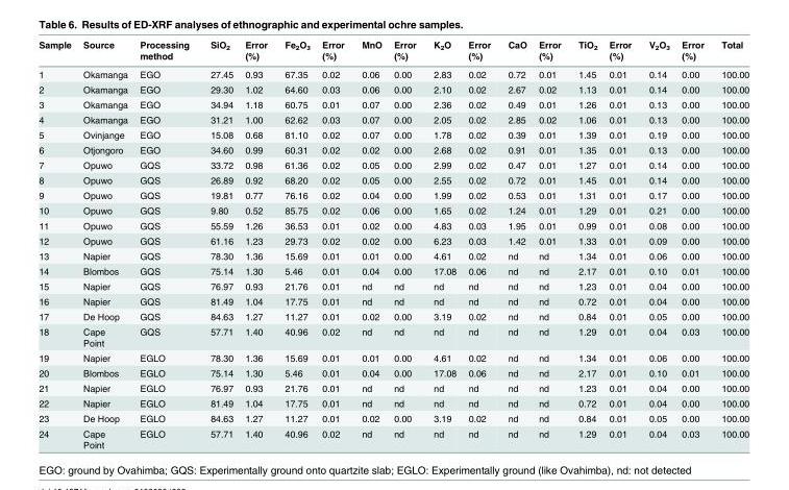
<table><thead><tr><td>Sample</td><td>Source</td><td>Processing method</td><td>SiO<sub>2</sub></td><td>Error (%)</td><td>Fe<sub>2</sub>O<sub>3</sub></td><td>Error (%)</td><td>MnO</td><td>Error (%)</td><td>K<sub>2</sub>O</td><td>Error (%)</td><td>CaO</td><td>Error (%)</td><td>TiO<sub>2</sub></td><td>Error (%)</td><td>V<sub>2</sub>O<sub>3</sub></td><td>Error (%)</td><td>Total</td></tr></thead><tbody><tr><td>1</td><td>Okamanga</td><td>EGO</td><td>27.45</td><td>0.93</td><td>67.35</td><td>0.02</td><td>0.06</td><td>0.00</td><td>2.83</td><td>0.02</td><td>0.72</td><td>0.01</td><td>1.45</td><td>0.01</td><td>0.14</td><td>0.00</td><td>100.00</td></tr><tr><td>2</td><td>Okamanga</td><td>EGO</td><td>29.30</td><td>1.02</td><td>64.60</td><td>0.03</td><td>0.06</td><td>0.00</td><td>2.10</td><td>0.02</td><td>2.67</td><td>0.02</td><td>1.13</td><td>0.01</td><td>0.14</td><td>0.00</td><td>100.00</td></tr><tr><td>3</td><td>Okamanga</td><td>EGO</td><td>34.94</td><td>1.18</td><td>60.75</td><td>0.01</td><td>0.07</td><td>0.00</td><td>2.36</td><td>0.02</td><td>0.49</td><td>0.01</td><td>1.26</td><td>0.01</td><td>0.13</td><td>0.00</td><td>100.00</td></tr><tr><td>4</td><td>Okamanga</td><td>EGO</td><td>31.21</td><td>1.00</td><td>62.62</td><td>0.03</td><td>0.07</td><td>0.00</td><td>2.05</td><td>0.02</td><td>2.85</td><td>0.02</td><td>1.06</td><td>0.01</td><td>0.13</td><td>0.00</td><td>100.00</td></tr><tr><td>5</td><td>Ovinjange</td><td>EGO</td><td>15.08</td><td>0.68</td><td>81.10</td><td>0.02</td><td>0.07</td><td>0.00</td><td>1.78</td><td>0.02</td><td>0.39</td><td>0.01</td><td>1.39</td><td>0.01</td><td>0.19</td><td>0.00</td><td>100.00</td></tr><tr><td>6</td><td>Otjongoro</td><td>EGO</td><td>34.60</td><td>0.99</td><td>60.31</td><td>0.02</td><td>0.02</td><td>0.00</td><td>2.68</td><td>0.02</td><td>0.91</td><td>0.01</td><td>1.35</td><td>0.01</td><td>0.13</td><td>0.00</td><td>100.00</td></tr><tr><td>7</td><td>Opuwo</td><td>GQS</td><td>33.72</td><td>0.98</td><td>61.36</td><td>0.02</td><td>0.05</td><td>0.00</td><td>2.99</td><td>0.02</td><td>0.47</td><td>0.01</td><td>1.27</td><td>0.01</td><td>0.14</td><td>0.00</td><td>100.00</td></tr><tr><td>8</td><td>Opuwo</td><td>GQS</td><td>26.89</td><td>0.92</td><td>68.20</td><td>0.02</td><td>0.05</td><td>0.00</td><td>2.55</td><td>0.02</td><td>0.72</td><td>0.01</td><td>1.45</td><td>0.01</td><td>0.14</td><td>0.00</td><td>100.00</td></tr><tr><td>9</td><td>Opuwo</td><td>GQS</td><td>19.81</td><td>0.77</td><td>76.16</td><td>0.02</td><td>0.04</td><td>0.00</td><td>1.99</td><td>0.02</td><td>0.53</td><td>0.01</td><td>1.31</td><td>0.01</td><td>0.17</td><td>0.00</td><td>100.00</td></tr><tr><td>10</td><td>Opuwo</td><td>GQS</td><td>9.80</td><td>0.52</td><td>85.75</td><td>0.02</td><td>0.06</td><td>0.00</td><td>1.65</td><td>0.02</td><td>1.24</td><td>0.01</td><td>1.29</td><td>0.01</td><td>0.21</td><td>0.00</td><td>100.00</td></tr><tr><td>11</td><td>Opuwo</td><td>GQS</td><td>55.59</td><td>1.26</td><td>36.53</td><td>0.01</td><td>0.02</td><td>0.00</td><td>4.83</td><td>0.03</td><td>1.95</td><td>0.01</td><td>0.99</td><td>0.01</td><td>0.08</td><td>0.00</td><td>100.00</td></tr><tr><td>12</td><td>Opuwo</td><td>GQS</td><td>61.16</td><td>1.23</td><td>29.73</td><td>0.02</td><td>0.02</td><td>0.00</td><td>6.23</td><td>0.03</td><td>1.42</td><td>0.01</td><td>1.33</td><td>0.01</td><td>0.09</td><td>0.00</td><td>100.00</td></tr><tr><td>13</td><td>Napier</td><td>GQS</td><td>78.30</td><td>1.36</td><td>15.69</td><td>0.01</td><td>0.01</td><td>0.00</td><td>4.61</td><td>0.02</td><td>nd</td><td>nd</td><td>1.34</td><td>0.01</td><td>0.06</td><td>0.00</td><td>100.00</td></tr><tr><td>14</td><td>Blombos</td><td>GQS</td><td>75.14</td><td>1.30</td><td>5.46</td><td>0.01</td><td>0.04</td><td>0.00</td><td>17.08</td><td>0.06</td><td>nd</td><td>nd</td><td>2.17</td><td>0.01</td><td>0.10</td><td>0.01</td><td>100.00</td></tr><tr><td>15</td><td>Napier</td><td>GQS</td><td>76.97</td><td>0.93</td><td>21.76</td><td>0.01</td><td>nd</td><td>nd</td><td>nd</td><td>nd</td><td>nd</td><td>nd</td><td>1.23</td><td>0.01</td><td>0.04</td><td>0.00</td><td>100.00</td></tr><tr><td>16</td><td>Napier</td><td>GQS</td><td>81.49</td><td>1.04</td><td>17.75</td><td>0.01</td><td>nd</td><td>nd</td><td>nd</td><td>nd</td><td>nd</td><td>nd</td><td>0.72</td><td>0.01</td><td>0.04</td><td>0.00</td><td>100.00</td></tr><tr><td>17</td><td>De Hoop</td><td>GQS</td><td>84.63</td><td>1.27</td><td>11.27</td><td>0.01</td><td>0.02</td><td>0.00</td><td>3.19</td><td>0.02</td><td>nd</td><td>nd</td><td>0.84</td><td>0.01</td><td>0.05</td><td>0.00</td><td>100.00</td></tr><tr><td>18</td><td>Cape Point</td><td>GQS</td><td>57.71</td><td>1.40</td><td>40.96</td><td>0.02</td><td>nd</td><td>nd</td><td>nd</td><td>nd</td><td>nd</td><td>nd</td><td>1.29</td><td>0.01</td><td>0.04</td><td>0.03</td><td>100.00</td></tr><tr><td>19</td><td>Napier</td><td>EGLO</td><td>78.30</td><td>1.36</td><td>15.69</td><td>0.01</td><td>0.01</td><td>0.00</td><td>4.61</td><td>0.02</td><td>nd</td><td>nd</td><td>1.34</td><td>0.01</td><td>0.06</td><td>0.00</td><td>100.00</td></tr><tr><td>20</td><td>Blombos</td><td>EGLO</td><td>75.14</td><td>1.30</td><td>5.46</td><td>0.01</td><td>0.04</td><td>0.00</td><td>17.08</td><td>0.06</td><td>nd</td><td>nd</td><td>2.17</td><td>0.01</td><td>0.10</td><td>0.01</td><td>100.00</td></tr><tr><td>21</td><td>Napier</td><td>EGLO</td><td>76.97</td><td>0.93</td><td>21.76</td><td>0.01</td><td>nd</td><td>nd</td><td>nd</td><td>nd</td><td>nd</td><td>nd</td><td>1.23</td><td>0.01</td><td>0.04</td><td>0.00</td><td>100.00</td></tr><tr><td>22</td><td>Napier</td><td>EGLO</td><td>81.49</td><td>1.04</td><td>17.75</td><td>0.01</td><td>nd</td><td>nd</td><td>nd</td><td>nd</td><td>nd</td><td>nd</td><td>0.72</td><td>0.01</td><td>0.04</td><td>0.00</td><td>100.00</td></tr><tr><td>23</td><td>De Hoop</td><td>EGLO</td><td>84.63</td><td>1.27</td><td>11.27</td><td>0.01</td><td>0.02</td><td>0.00</td><td>3.19</td><td>0.02</td><td>nd</td><td>nd</td><td>0.84</td><td>0.01</td><td>0.05</td><td>0.00</td><td>100.00</td></tr><tr><td>24</td><td>Cape Point</td><td>EGLO</td><td>57.71</td><td>1.40</td><td>40.96</td><td>0.02</td><td>nd</td><td>nd</td><td>nd</td><td>nd</td><td>nd</td><td>nd</td><td>1.29</td><td>0.01</td><td>0.04</td><td>0.03</td><td>100.00</td></tr></tbody></table>